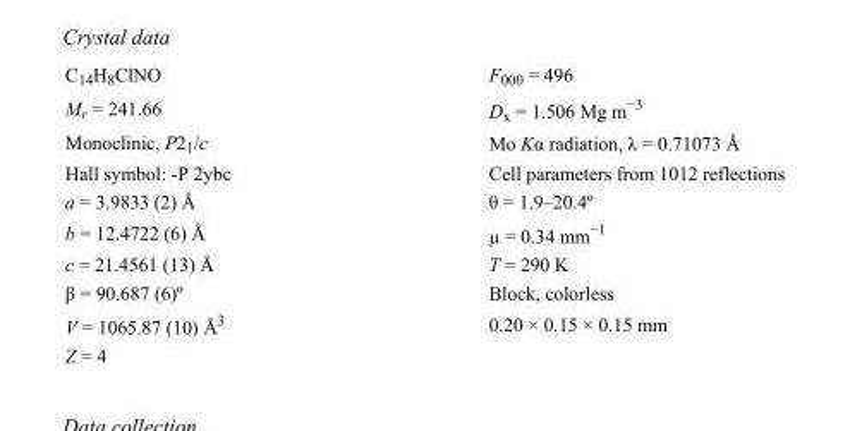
<table><tbody><tr><td>C<sub>14</sub>H<sub>8</sub>ClNO</td><td>F000 = 496</td></tr><tr><td>M<sub>r</sub> = 241.66</td><td>D<sub>x</sub> = 1.506 Mg m<sup>−3</sup></td></tr><tr><td>Monoclinic, P2<sub>1</sub>/c</td><td>Mo Kα radiation, λ = 0.71073 Å</td></tr><tr><td>Hall symbol: -P 2ybc</td><td>Cell parameters from 1012 reflections</td></tr><tr><td>a = 3.9833 (2) Å</td><td>θ = 1.9–20.4º</td></tr><tr><td>b = 12.4722 (6) Å</td><td>µ = 0.34 mm<sup>−1</sup></td></tr><tr><td>c = 21.4561 (13) Å</td><td>T = 290 K</td></tr><tr><td>β = 90.687 (6)º</td><td>Block, colorless</td></tr><tr><td>V = 1065.87 (10) Å<sup>3</sup></td><td>0.20 × 0.15 × 0.15 mm</td></tr><tr><td>Z = 4</td><td></td></tr></tbody></table>